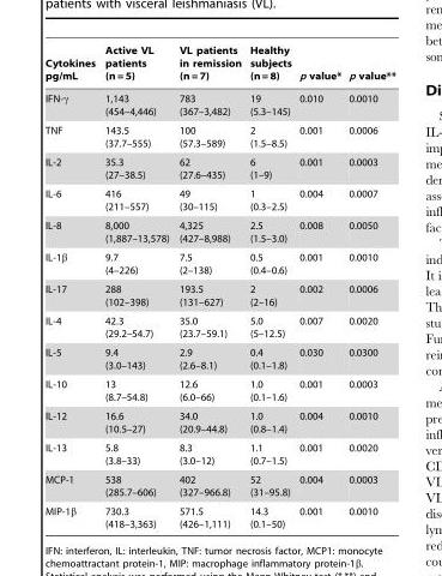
<table><thead><tr><td>Cytokines pg/mL</td><td>Active VL patients (n = 5)</td><td>VL patients in remission (n = 7)</td><td>Healthy subjects (n = 8)</td><td>p value*</td><td>p value**</td></tr></thead><tbody><tr><td>IFN-γ</td><td>1,143 (454–4,446)</td><td>783 (367–3,482)</td><td>19 (5.3–145)</td><td>0.010</td><td>0.0010</td></tr><tr><td>TNF</td><td>143.5 (37.7–555)</td><td>100 (57.3–589)</td><td>2 (1.5–8.5)</td><td>0.001</td><td>0.0006</td></tr><tr><td>IL-2</td><td>35.3 (27–38.5)</td><td>62 (27.6–435)</td><td>6 (1–9)</td><td>0.001</td><td>0.0003</td></tr><tr><td>IL-6</td><td>416 (211–557)</td><td>49 (30–115)</td><td>1 (0.3–2.5)</td><td>0.004</td><td>0.0007</td></tr><tr><td>IL-8</td><td>8,000 (1,887–13,578)</td><td>4,325 (427–8,988)</td><td>2.5 (1.5–3.0)</td><td>0.008</td><td>0.0050</td></tr><tr><td>IL-1β</td><td>9.7 (4–226)</td><td>7.5 (2–138)</td><td>0.5 (0.4–0.6)</td><td>0.001</td><td>0.0010</td></tr><tr><td>IL-17</td><td>288 (102–398)</td><td>193.5 (131–627)</td><td>2 (2–16)</td><td>0.002</td><td>0.0006</td></tr><tr><td>IL-4</td><td>42.3 (29.2–54.7)</td><td>35.0 (23.7–59.1)</td><td>5.0 (5–12.5)</td><td>0.007</td><td>0.0020</td></tr><tr><td>IL-5</td><td>9.4 (3.0–143)</td><td>2.9 (2.6–8.1)</td><td>0.4 (0.1–1.8)</td><td>0.030</td><td>0.0300</td></tr><tr><td>IL-10</td><td>13 (8.7–54.8)</td><td>12.6 (6.0–66)</td><td>1.0 (0.1–1.6)</td><td>0.001</td><td>0.0003</td></tr><tr><td>IL-12</td><td>16.6 (10.5–27)</td><td>34.0 (20.9–44.8)</td><td>1.0 (0.8–1.4)</td><td>0.004</td><td>0.0010</td></tr><tr><td>IL-13</td><td>5.8 (3.8–33)</td><td>8.3 (3.0–12)</td><td>1.1 (0.7–1.5)</td><td>0.001</td><td>0.0020</td></tr><tr><td>MCP-1</td><td>538 (285.7–606)</td><td>402 (327–966.8)</td><td>52 (31–95.8)</td><td>0.004</td><td>0.0003</td></tr><tr><td>MIP-1β</td><td>730.3 (418–3,363)</td><td>571.5 (426–1,111)</td><td>14.3 (0.1–50)</td><td>0.001</td><td>0.0010</td></tr></tbody></table>